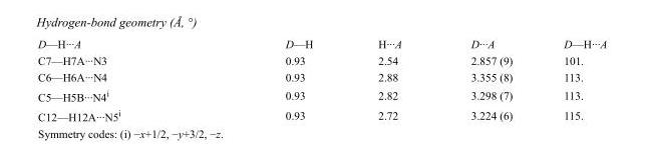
<table><tbody><tr><td>D—H···A</td><td>D—H</td><td>H···A</td><td>D···A</td><td>D—H···A</td></tr><tr><td>C7—H7A···N3</td><td>0.93</td><td>2.54</td><td>2.857 (9)</td><td>101.</td></tr><tr><td>C6—H6A···N4</td><td>0.93</td><td>2.88</td><td>3.355 (8)</td><td>113.</td></tr><tr><td>C5—H5B···N4<sup>i</sup></td><td>0.93</td><td>2.82</td><td>3.298 (7)</td><td>113.</td></tr><tr><td>C12—H12A···N5<sup>i</sup></td><td>0.93</td><td>2.72</td><td>3.224 (6)</td><td>115.</td></tr></tbody></table>